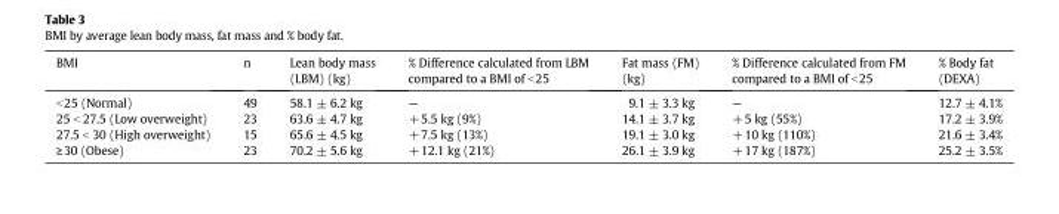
<table><thead><tr><td>BMI</td><td>n</td><td>Lean body mass (LBM) (kg)</td><td>% Difference calculated from LBM compared to a BMI of &lt;25</td><td>Fat mass (FM) (kg)</td><td>% Difference calculated from FM compared to a BMI of &lt;25</td><td>% Body fat (DEXA)</td></tr></thead><tbody><tr><td>&lt;25 (Normal)</td><td>49</td><td>58.1 ± 6.2 kg</td><td>—</td><td>9.1 ± 3.3 kg</td><td>—</td><td>12.7 ± 4.1%</td></tr><tr><td>25 &lt; 27.5 (Low overweight)</td><td>23</td><td>63.6 ± 4.7 kg</td><td>+5.5 kg (9%)</td><td>14.1 ± 3.7 kg</td><td>+5 kg (55%)</td><td>17.2 ± 3.9%</td></tr><tr><td>27.5 &lt; 30 (High overweight)</td><td>15</td><td>65.6 ± 4.5 kg</td><td>+7.5 kg (13%)</td><td>19.1 ± 3.0 kg</td><td>+10 kg (110%)</td><td>21.6 ± 3.4%</td></tr><tr><td>≥30 (Obese)</td><td>23</td><td>70.2 ± 5.6 kg</td><td>+12.1 kg (21%)</td><td>26.1 ± 3.9 kg</td><td>+17 kg (187%)</td><td>25.2 ± 3.5%</td></tr></tbody></table>